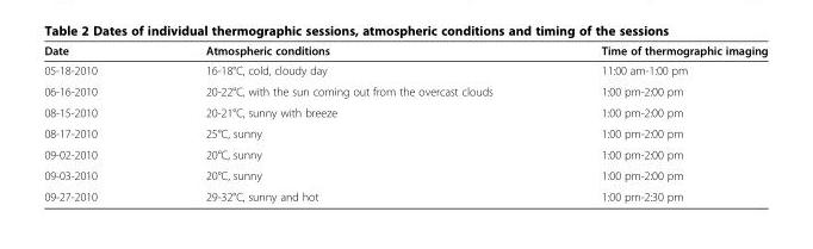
<table><thead><tr><td>Date</td><td>Atmospheric conditions</td><td>Time of thermographic imaging</td></tr></thead><tbody><tr><td>05-18-2010</td><td>16-18°C, cold, cloudy day</td><td>11:00 am-1:00 pm</td></tr><tr><td>06-16-2010</td><td>20-22°C, with the sun coming out from the overcast clouds</td><td>1:00 pm-2:00 pm</td></tr><tr><td>08-15-2010</td><td>20-21°C, sunny with breeze</td><td>1:00 pm-2:00 pm</td></tr><tr><td>08-17-2010</td><td>25°C, sunny</td><td>1:00 pm-2:00 pm</td></tr><tr><td>09-02-2010</td><td>20°C, sunny</td><td>1:00 pm-2:00 pm</td></tr><tr><td>09-03-2010</td><td>20°C, sunny</td><td>1:00 pm-2:00 pm</td></tr><tr><td>09-27-2010</td><td>29-32°C, sunny and hot</td><td>1:00 pm-2:30 pm</td></tr></tbody></table>